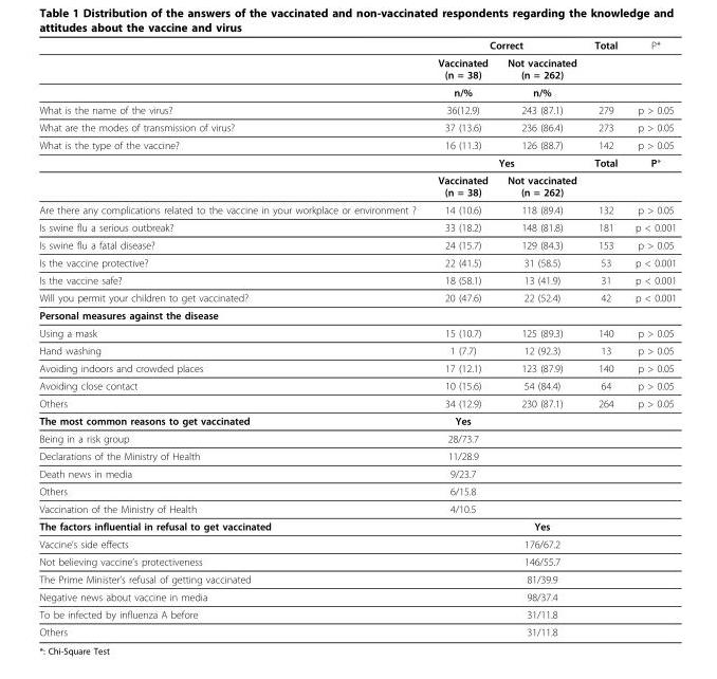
<table><thead><tr><td rowspan="2"></td><td colspan="2">Correct</td><td rowspan="2">Total</td><td rowspan="2">P*</td></tr><tr><td>Vaccinated (n = 38)</td><td>Not vaccinated (n = 262)</td></tr></thead><tbody><tr><td></td><td>n/%</td><td>n/%</td><td></td><td></td></tr><tr><td>What is the name of the virus?</td><td>36(12.9)</td><td>243 (87.1)</td><td>279</td><td>p &gt; 0.05</td></tr><tr><td>What are the modes of transmission of virus?</td><td>37 (13.6)</td><td>236 (86.4)</td><td>273</td><td>p &gt; 0.05</td></tr><tr><td rowspan="3">What is the type of the vaccine?</td><td>16 (11.3)</td><td>126 (88.7)</td><td>142</td><td>p &gt; 0.05</td></tr><tr><td colspan="2">Yes</td><td>Total</td><td>P*</td></tr><tr><td>Vaccinated (n = 38)</td><td>Not vaccinated (n = 262)</td><td></td><td></td></tr><tr><td>Are there any complications related to the vaccine in your workplace or environment ?</td><td>14 (10.6)</td><td>118 (89.4)</td><td>132</td><td>p &gt; 0.05</td></tr><tr><td>Is swine flu a serious outbreak?</td><td>33 (18.2)</td><td>148 (81.8)</td><td>181</td><td>p &lt; 0.001</td></tr><tr><td>Is swine flu a fatal disease?</td><td>24 (15.7)</td><td>129 (84.3)</td><td>153</td><td>p &gt; 0.05</td></tr><tr><td>Is the vaccine protective?</td><td>22 (41.5)</td><td>31 (58.5)</td><td>53</td><td>p &lt; 0.001</td></tr><tr><td>Is the vaccine safe?</td><td>18 (58.1)</td><td>13 (41.9)</td><td>31</td><td>p &lt; 0.001</td></tr><tr><td>Will you permit your children to get vaccinated?</td><td>20 (47.6)</td><td>22 (52.4)</td><td>42</td><td>p &lt; 0.001</td></tr><tr><td colspan="5">Personal measures against the disease</td></tr><tr><td>Using a mask</td><td>15 (10.7)</td><td>125 (89.3)</td><td>140</td><td>p &gt; 0.05</td></tr><tr><td>Hand washing</td><td>1 (7.7)</td><td>12 (92.3)</td><td>13</td><td>p &gt; 0.05</td></tr><tr><td>Avoiding indoors and crowded places</td><td>17 (12.1)</td><td>123 (87.9)</td><td>140</td><td>p &gt; 0.05</td></tr><tr><td>Avoiding close contact</td><td>10 (15.6)</td><td>54 (84.4)</td><td>64</td><td>p &gt; 0.05</td></tr><tr><td>Others</td><td>34 (12.9)</td><td>230 (87.1)</td><td>264</td><td>p &gt; 0.05</td></tr><tr><td>The most common reasons to get vaccinated</td><td>Yes</td><td></td><td></td><td></td></tr><tr><td>Being in a risk group</td><td>28/73.7</td><td></td><td></td><td></td></tr><tr><td>Declarations of the Ministry of Health</td><td>11/28.9</td><td></td><td></td><td></td></tr><tr><td>Death news in media</td><td>9/23.7</td><td></td><td></td><td></td></tr><tr><td>Others</td><td>6/15.8</td><td></td><td></td><td></td></tr><tr><td>Vaccination of the Ministry of Health</td><td>4/10.5</td><td></td><td></td><td></td></tr><tr><td>The factors influential in refusal to get vaccinated</td><td></td><td>Yes</td><td></td><td></td></tr><tr><td>Vaccine’s side effects</td><td></td><td>176/67.2</td><td></td><td></td></tr><tr><td>Not believing vaccine’s protectiveness</td><td></td><td>146/55.7</td><td></td><td></td></tr><tr><td>The Prime Minister’s refusal of getting vaccinated</td><td></td><td>81/39.9</td><td></td><td></td></tr><tr><td>Negative news about vaccine in media</td><td></td><td>98/37.4</td><td></td><td></td></tr><tr><td>To be infected by influenza A before</td><td></td><td>31/11.8</td><td></td><td></td></tr><tr><td>Others</td><td></td><td>31/11.8</td><td></td><td></td></tr></tbody></table>